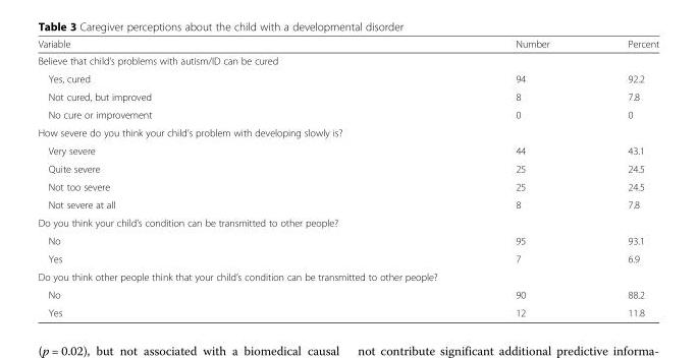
<table><thead><tr><td>Variable</td><td>Number</td><td>Percent</td></tr></thead><tbody><tr><td colspan="3">Believe that child’s problems with autism/ID can be cured</td></tr><tr><td>Yes, cured</td><td>94</td><td>92.2</td></tr><tr><td>Not cured, but improved</td><td>8</td><td>7.8</td></tr><tr><td>No cure or improvement</td><td>0</td><td>0</td></tr><tr><td colspan="3">How severe do you think your child’s problem with developing slowly is?</td></tr><tr><td>Very severe</td><td>44</td><td>43.1</td></tr><tr><td>Quite severe</td><td>25</td><td>24.5</td></tr><tr><td>Not too severe</td><td>25</td><td>24.5</td></tr><tr><td>Not severe at all</td><td>8</td><td>7.8</td></tr><tr><td colspan="3">Do you think your child’s condition can be transmitted to other people?</td></tr><tr><td>No</td><td>95</td><td>93.1</td></tr><tr><td>Yes</td><td>7</td><td>6.9</td></tr><tr><td colspan="3">Do you think other people think that your child’s condition can be transmitted to other people?</td></tr><tr><td>No</td><td>90</td><td>88.2</td></tr><tr><td>Yes</td><td>12</td><td>11.8</td></tr></tbody></table>